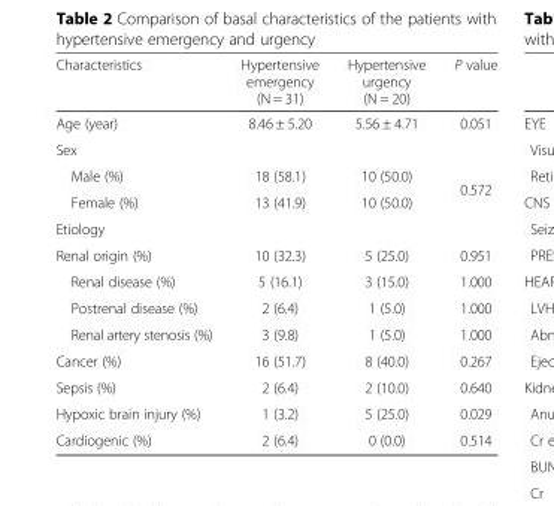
<table><thead><tr><td>Characteristics</td><td>Hypertensive emergency (N = 31)</td><td>Hypertensive urgency (N = 20)</td><td>P value</td></tr></thead><tbody><tr><td>Age (year)</td><td>8.46 ± 5.20</td><td>5.56 ± 4.71</td><td>0.051</td></tr><tr><td colspan="4">Sex</td></tr><tr><td>Male (%)</td><td>18 (58.1)</td><td>10 (50.0)</td><td rowspan="2">0.572</td></tr><tr><td>Female (%)</td><td>13 (41.9)</td><td>10 (50.0)</td></tr><tr><td colspan="4">Etiology</td></tr><tr><td>Renal origin (%)</td><td>10 (32.3)</td><td>5 (25.0)</td><td>0.951</td></tr><tr><td>Renal disease (%)</td><td>5 (16.1)</td><td>3 (15.0)</td><td>1.000</td></tr><tr><td>Postrenal disease (%)</td><td>2 (6.4)</td><td>1 (5.0)</td><td>1.000</td></tr><tr><td>Renal artery stenosis (%)</td><td>3 (9.8)</td><td>1 (5.0)</td><td>1.000</td></tr><tr><td>Cancer (%)</td><td>16 (51.7)</td><td>8 (40.0)</td><td>0.267</td></tr><tr><td>Sepsis (%)</td><td>2 (6.4)</td><td>2 (10.0)</td><td>0.640</td></tr><tr><td>Hypoxic brain injury (%)</td><td>1 (3.2)</td><td>5 (25.0)</td><td>0.029</td></tr><tr><td>Cardiogenic (%)</td><td>2 (6.4)</td><td>0 (0.0)</td><td>0.514</td></tr></tbody></table>